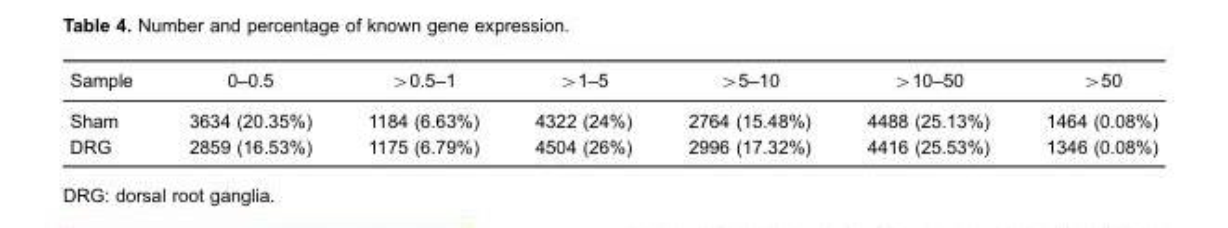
<table><thead><tr><td>Sample</td><td>0–0.5</td><td>&gt;0.5–1</td><td>&gt;1–5</td><td>&gt;5–10</td><td>&gt;10–50</td><td>&gt;50</td></tr></thead><tbody><tr><td>Sham</td><td>3634 (20.35%)</td><td>1184 (6.63%)</td><td>4322 (24%)</td><td>2764 (15.48%)</td><td>4488 (25.13%)</td><td>1464 (0.08%)</td></tr><tr><td>DRG</td><td>2859 (16.53%)</td><td>1175 (6.79%)</td><td>4504 (26%)</td><td>2996 (17.32%)</td><td>4416 (25.53%)</td><td>1346 (0.08%)</td></tr></tbody></table>